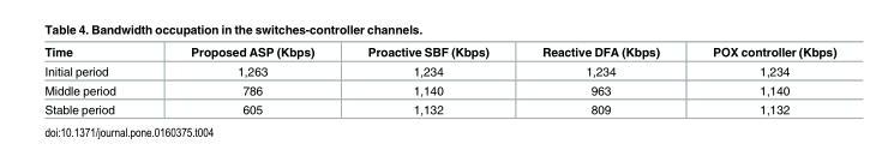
<table><thead><tr><td>Time</td><td>Proposed ASP (Kbps)</td><td>Proactive SBF (Kbps)</td><td>Reactive DFA (Kbps)</td><td>POX controller (Kbps)</td></tr></thead><tbody><tr><td>Initial period</td><td>1,263</td><td>1,234</td><td>1,234</td><td>1,234</td></tr><tr><td>Middle period</td><td>786</td><td>1,140</td><td>963</td><td>1,140</td></tr><tr><td>Stable period</td><td>605</td><td>1,132</td><td>809</td><td>1,132</td></tr></tbody></table>